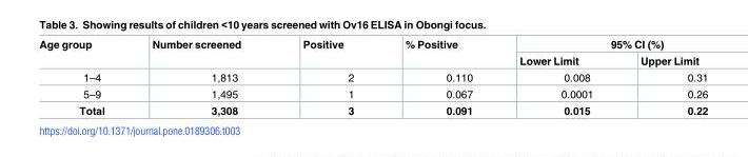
<table><thead><tr><td rowspan="2">Age group</td><td rowspan="2">Number screened</td><td rowspan="2">Positive</td><td rowspan="2">% Positive</td><td colspan="2">95% CI (%)</td></tr><tr><td>Lower Limit</td><td>Upper Limit</td></tr></thead><tbody><tr><td>1–4</td><td>1,813</td><td>2</td><td>0.110</td><td>0.008</td><td>0.31</td></tr><tr><td>5–9</td><td>1,495</td><td>1</td><td>0.067</td><td>0.0001</td><td>0.26</td></tr><tr><td>Total</td><td>3,308</td><td>3</td><td>0.091</td><td>0.015</td><td>0.22</td></tr></tbody></table>